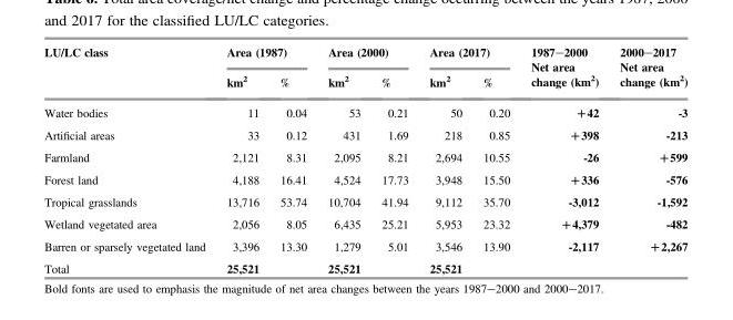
<table><thead><tr><td rowspan="2">LU/LC class</td><td colspan="2">Area (1987)</td><td colspan="2">Area (2000)</td><td colspan="2">Area (2017)</td><td rowspan="2">1987–2000 Net area change (km<sup>2</sup>)</td><td rowspan="2">2000–2017 Net area change (km<sup>2</sup>)</td></tr><tr><td>km<sup>2</sup></td><td>%</td><td>km<sup>2</sup></td><td>%</td><td>km<sup>2</sup></td><td>%</td></tr></thead><tbody><tr><td>Water bodies</td><td>11</td><td>0.04</td><td>53</td><td>0.21</td><td>50</td><td>0.20</td><td>+42</td><td>-3</td></tr><tr><td>Artificial areas</td><td>33</td><td>0.12</td><td>431</td><td>1.69</td><td>218</td><td>0.85</td><td>+398</td><td>-213</td></tr><tr><td>Farmland</td><td>2,121</td><td>8.31</td><td>2,095</td><td>8.21</td><td>2,694</td><td>10.55</td><td>-26</td><td>+599</td></tr><tr><td>Forest land</td><td>4,188</td><td>16.41</td><td>4,524</td><td>17.73</td><td>3,948</td><td>15.50</td><td>+336</td><td>-576</td></tr><tr><td>Tropical grasslands</td><td>13,716</td><td>53.74</td><td>10,704</td><td>41.94</td><td>9,112</td><td>35.70</td><td>-3,012</td><td>-1,592</td></tr><tr><td>Wetland vegetated area</td><td>2,056</td><td>8.05</td><td>6,435</td><td>25.21</td><td>5,953</td><td>23.32</td><td>+4,379</td><td>-482</td></tr><tr><td>Barren or sparsely vegetated land</td><td>3,396</td><td>13.30</td><td>1,279</td><td>5.01</td><td>3,546</td><td>13.90</td><td>-2,117</td><td>+2,267</td></tr><tr><td>Total</td><td>25,521</td><td></td><td>25,521</td><td></td><td>25,521</td><td></td><td></td><td></td></tr></tbody></table>